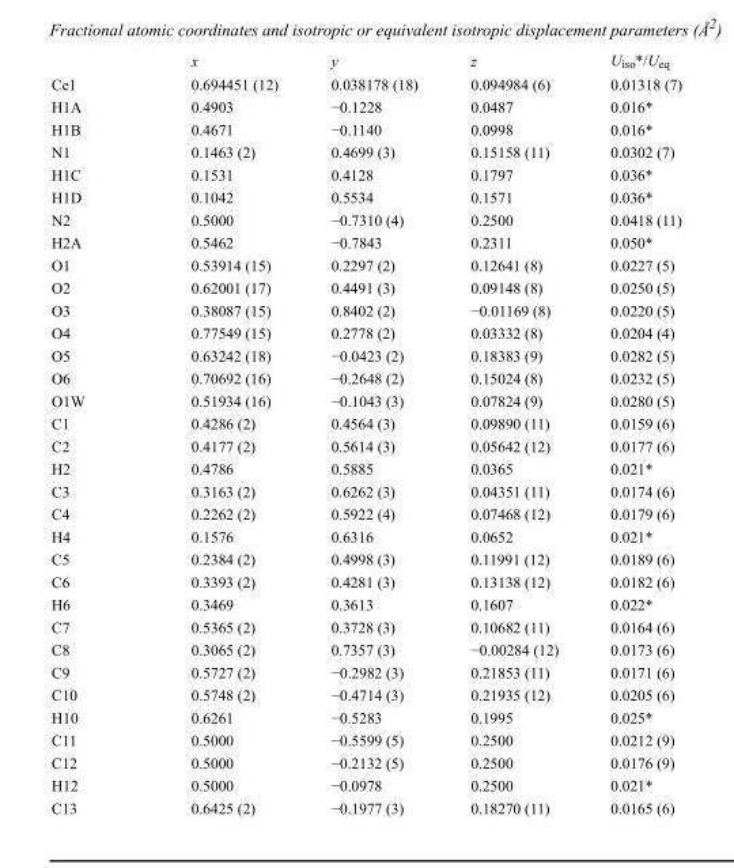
<table><thead><tr><td></td><td>x</td><td>y</td><td>z</td><td>U<sub>iso</sub>*/U<sub>eq</sub></td></tr></thead><tbody><tr><td>Ce1</td><td>0.694451 (12)</td><td>0.038178 (18)</td><td>0.094984 (6)</td><td>0.01318 (7)</td></tr><tr><td>H1A</td><td>0.4903</td><td>−0.1228</td><td>0.0487</td><td>0.016*</td></tr><tr><td>H1B</td><td>0.4671</td><td>−0.1140</td><td>0.0998</td><td>0.016*</td></tr><tr><td>N1</td><td>0.1463 (2)</td><td>0.4699 (3)</td><td>0.15158 (11)</td><td>0.0302 (7)</td></tr><tr><td>H1C</td><td>0.1531</td><td>0.4128</td><td>0.1797</td><td>0.036*</td></tr><tr><td>H1D</td><td>0.1042</td><td>0.5534</td><td>0.1571</td><td>0.036*</td></tr><tr><td>N2</td><td>0.5000</td><td>−0.7310 (4)</td><td>0.2500</td><td>0.0418 (11)</td></tr><tr><td>H2A</td><td>0.5462</td><td>−0.7843</td><td>0.2311</td><td>0.050*</td></tr><tr><td>O1</td><td>0.53914 (15)</td><td>0.2297 (2)</td><td>0.12641 (8)</td><td>0.0227 (5)</td></tr><tr><td>O2</td><td>0.62001 (17)</td><td>0.4491 (3)</td><td>0.09148 (8)</td><td>0.0250 (5)</td></tr><tr><td>O3</td><td>0.38087 (15)</td><td>0.8402 (2)</td><td>−0.01169 (8)</td><td>0.0220 (5)</td></tr><tr><td>O4</td><td>0.77549 (15)</td><td>0.2778 (2)</td><td>0.03332 (8)</td><td>0.0204 (4)</td></tr><tr><td>O5</td><td>0.63242 (18)</td><td>−0.0423 (2)</td><td>0.18383 (9)</td><td>0.0282 (5)</td></tr><tr><td>O6</td><td>0.70692 (16)</td><td>−0.2648 (2)</td><td>0.15024 (8)</td><td>0.0232 (5)</td></tr><tr><td>O1W</td><td>0.51934 (16)</td><td>−0.1043 (3)</td><td>0.07824 (9)</td><td>0.0280 (5)</td></tr><tr><td>C1</td><td>0.4286 (2)</td><td>0.4564 (3)</td><td>0.09890 (11)</td><td>0.0159 (6)</td></tr><tr><td>C2</td><td>0.4177 (2)</td><td>0.5614 (3)</td><td>0.05642 (12)</td><td>0.0177 (6)</td></tr><tr><td>H2</td><td>0.4786</td><td>0.5885</td><td>0.0365</td><td>0.021*</td></tr><tr><td>C3</td><td>0.3163 (2)</td><td>0.6262 (3)</td><td>0.04351 (11)</td><td>0.0174 (6)</td></tr><tr><td>C4</td><td>0.2262 (2)</td><td>0.5922 (4)</td><td>0.07468 (12)</td><td>0.0179 (6)</td></tr><tr><td>H4</td><td>0.1576</td><td>0.6316</td><td>0.0652</td><td>0.021*</td></tr><tr><td>C5</td><td>0.2384 (2)</td><td>0.4998 (3)</td><td>0.11991 (12)</td><td>0.0189 (6)</td></tr><tr><td>C6</td><td>0.3393 (2)</td><td>0.4281 (3)</td><td>0.13138 (12)</td><td>0.0182 (6)</td></tr><tr><td>H6</td><td>0.3469</td><td>0.3613</td><td>0.1607</td><td>0.022*</td></tr><tr><td>C7</td><td>0.5365 (2)</td><td>0.3728 (3)</td><td>0.10682 (11)</td><td>0.0164 (6)</td></tr><tr><td>C8</td><td>0.3065 (2)</td><td>0.7357 (3)</td><td>−0.00284 (12)</td><td>0.0173 (6)</td></tr><tr><td>C9</td><td>0.5727 (2)</td><td>−0.2982 (3)</td><td>0.21853 (11)</td><td>0.0171 (6)</td></tr><tr><td>C10</td><td>0.5748 (2)</td><td>−0.4714 (3)</td><td>0.21935 (12)</td><td>0.0205 (6)</td></tr><tr><td>H10</td><td>0.6261</td><td>−0.5283</td><td>0.1995</td><td>0.025*</td></tr><tr><td>C11</td><td>0.5000</td><td>−0.5599 (5)</td><td>0.2500</td><td>0.0212 (9)</td></tr><tr><td>C12</td><td>0.5000</td><td>−0.2132 (5)</td><td>0.2500</td><td>0.0176 (9)</td></tr><tr><td>H12</td><td>0.5000</td><td>−0.0978</td><td>0.2500</td><td>0.021*</td></tr><tr><td>C13</td><td>0.6425 (2)</td><td>−0.1977 (3)</td><td>0.18270 (11)</td><td>0.0165 (6)</td></tr></tbody></table>